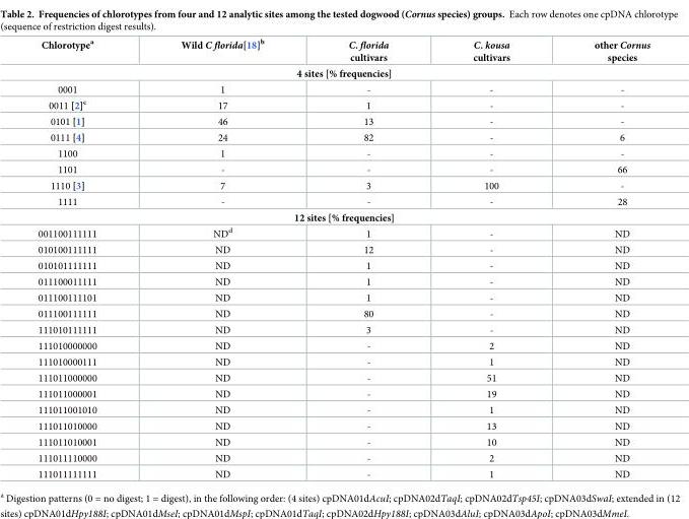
<table><thead><tr><td>Chlorotype<sup>a</sup></td><td>Wild C florida[18]<sup>b</sup></td><td>C. florida cultivars</td><td>C. kousa cultivars</td><td>other Cornus species</td></tr></thead><tbody><tr><td colspan="5">4 sites [% frequencies]</td></tr><tr><td>0001</td><td>1</td><td>-</td><td>-</td><td>-</td></tr><tr><td>0011 [2]<sup>c</sup></td><td>17</td><td>1</td><td>-</td><td>-</td></tr><tr><td>0101 [1]</td><td>46</td><td>13</td><td>-</td><td>-</td></tr><tr><td>0111 [4]</td><td>24</td><td>82</td><td>-</td><td>6</td></tr><tr><td>1100</td><td>1</td><td>-</td><td>-</td><td>-</td></tr><tr><td>1101</td><td>-</td><td>-</td><td>-</td><td>66</td></tr><tr><td>1110 [3]</td><td>7</td><td>3</td><td>100</td><td>-</td></tr><tr><td>1111</td><td>-</td><td>-</td><td>-</td><td>28</td></tr><tr><td colspan="5">12 sites [% frequencies]</td></tr><tr><td>001100111111</td><td>ND<sup>d</sup></td><td>1</td><td>-</td><td>ND</td></tr><tr><td>010100111111</td><td>ND</td><td>12</td><td>-</td><td>ND</td></tr><tr><td>010101111111</td><td>ND</td><td>1</td><td>-</td><td>ND</td></tr><tr><td>011100011111</td><td>ND</td><td>1</td><td>-</td><td>ND</td></tr><tr><td>011100111101</td><td>ND</td><td>1</td><td>-</td><td>ND</td></tr><tr><td>011100111111</td><td>ND</td><td>80</td><td>-</td><td>ND</td></tr><tr><td>111010111111</td><td>ND</td><td>3</td><td>-</td><td>ND</td></tr><tr><td>111010000000</td><td>ND</td><td>-</td><td>2</td><td>ND</td></tr><tr><td>111010000111</td><td>ND</td><td>-</td><td>1</td><td>ND</td></tr><tr><td>111011000000</td><td>ND</td><td>-</td><td>51</td><td>ND</td></tr><tr><td>111011000001</td><td>ND</td><td>-</td><td>19</td><td>ND</td></tr><tr><td>111011001010</td><td>ND</td><td>-</td><td>1</td><td>ND</td></tr><tr><td>111011010000</td><td>ND</td><td>-</td><td>13</td><td>ND</td></tr><tr><td>111011010001</td><td>ND</td><td>-</td><td>10</td><td>ND</td></tr><tr><td>111011110000</td><td>ND</td><td>-</td><td>2</td><td>ND</td></tr><tr><td>111011111111</td><td>ND</td><td>-</td><td>1</td><td>ND</td></tr></tbody></table>